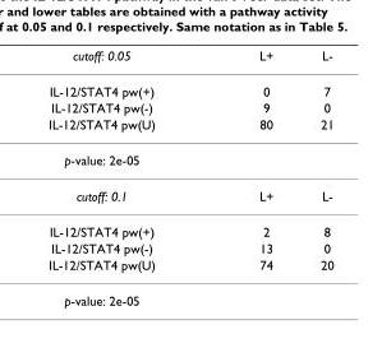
<table><thead><tr><td>cutoff: 0.05</td><td>L+</td><td>L-</td></tr></thead><tbody><tr><td>IL-12/STAT4 pw(+)</td><td>0</td><td>7</td></tr><tr><td>IL-12/STAT4 pw(-)</td><td>9</td><td>0</td></tr><tr><td>IL-12/STAT4 pw(U)</td><td>80</td><td>21</td></tr><tr><td colspan="3">p-value: 2e-05</td></tr><tr><td>cutoff: 0.1</td><td>L+</td><td>L-</td></tr><tr><td>IL-12/STAT4 pw(+)</td><td>2</td><td>8</td></tr><tr><td>IL-12/STAT4 pw(-)</td><td>13</td><td>0</td></tr><tr><td>IL-12/STAT4 pw(U)</td><td>74</td><td>20</td></tr><tr><td>p-value: 2e-05</td><td></td><td></td></tr></tbody></table>